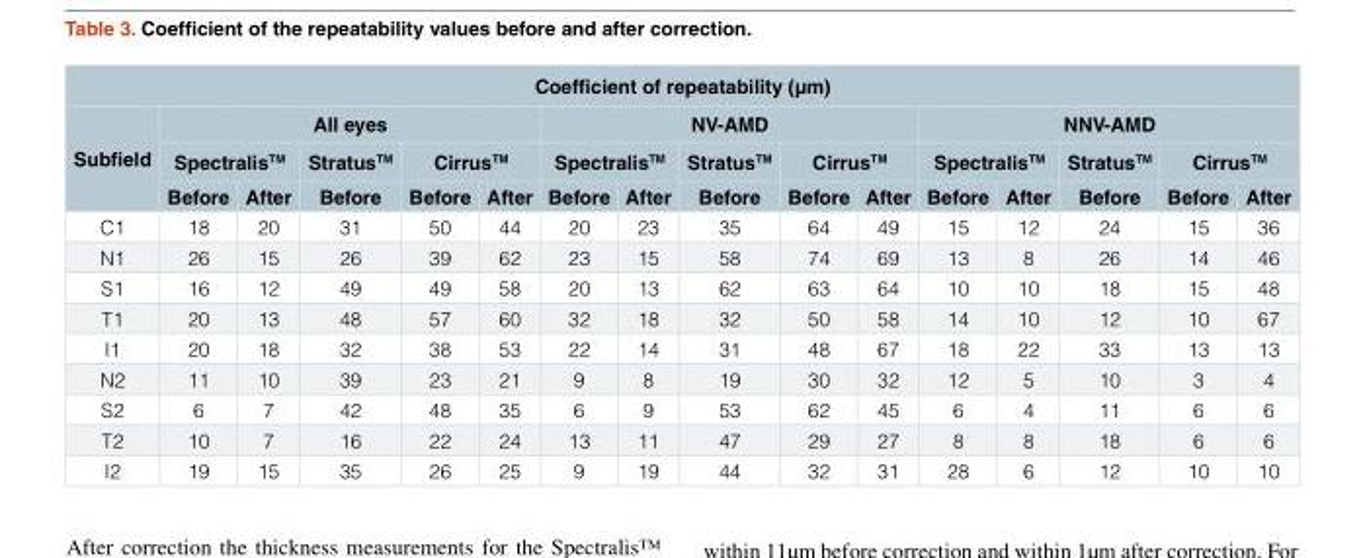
<table><thead><tr><td colspan="16">Coefficient of repeatability (µm)</td></tr><tr><td rowspan="3">Subfield</td><td colspan="5">All eyes</td><td colspan="5">NV-AMD</td><td colspan="5">NNV-AMD</td></tr><tr><td colspan="2">SpectralisTM</td><td rowspan="2">StratusTM Before</td><td colspan="2">CirrusTM</td><td colspan="2">SpectralisTM</td><td rowspan="2">StratusTM Before</td><td colspan="2">CirrusTM</td><td colspan="2">SpectralisTM</td><td rowspan="2">StratusTM Before</td><td colspan="2">CirrusTM</td></tr><tr><td>Before</td><td>After</td><td>Before</td><td>After</td><td>Before</td><td>After</td><td>Before</td><td>After</td><td>Before</td><td>After</td><td>Before</td><td>After</td></tr></thead><tbody><tr><td>C1</td><td>18</td><td>20</td><td>31</td><td>50</td><td>44</td><td>20</td><td>23</td><td>35</td><td>64</td><td>49</td><td>15</td><td>12</td><td>24</td><td>15</td><td>36</td></tr><tr><td>N1</td><td>26</td><td>15</td><td>26</td><td>39</td><td>62</td><td>23</td><td>15</td><td>58</td><td>74</td><td>69</td><td>13</td><td>8</td><td>26</td><td>14</td><td>46</td></tr><tr><td>S1</td><td>16</td><td>12</td><td>49</td><td>49</td><td>58</td><td>20</td><td>13</td><td>62</td><td>63</td><td>64</td><td>10</td><td>10</td><td>18</td><td>15</td><td>48</td></tr><tr><td>T1</td><td>20</td><td>13</td><td>48</td><td>57</td><td>60</td><td>32</td><td>18</td><td>32</td><td>50</td><td>58</td><td>14</td><td>10</td><td>12</td><td>10</td><td>67</td></tr><tr><td>I1</td><td>20</td><td>18</td><td>32</td><td>38</td><td>53</td><td>22</td><td>14</td><td>31</td><td>48</td><td>67</td><td>18</td><td>22</td><td>33</td><td>13</td><td>13</td></tr><tr><td>N2</td><td>11</td><td>10</td><td>39</td><td>23</td><td>21</td><td>9</td><td>8</td><td>19</td><td>30</td><td>32</td><td>12</td><td>5</td><td>10</td><td>3</td><td>4</td></tr><tr><td>S2</td><td>6</td><td>7</td><td>42</td><td>48</td><td>35</td><td>6</td><td>9</td><td>53</td><td>62</td><td>45</td><td>6</td><td>4</td><td>11</td><td>6</td><td>6</td></tr><tr><td>T2</td><td>10</td><td>7</td><td>16</td><td>22</td><td>24</td><td>13</td><td>11</td><td>47</td><td>29</td><td>27</td><td>8</td><td>8</td><td>18</td><td>6</td><td>6</td></tr><tr><td>I2</td><td>19</td><td>15</td><td>35</td><td>26</td><td>25</td><td>9</td><td>19</td><td>44</td><td>32</td><td>31</td><td>28</td><td>6</td><td>12</td><td>10</td><td>10</td></tr></tbody></table>